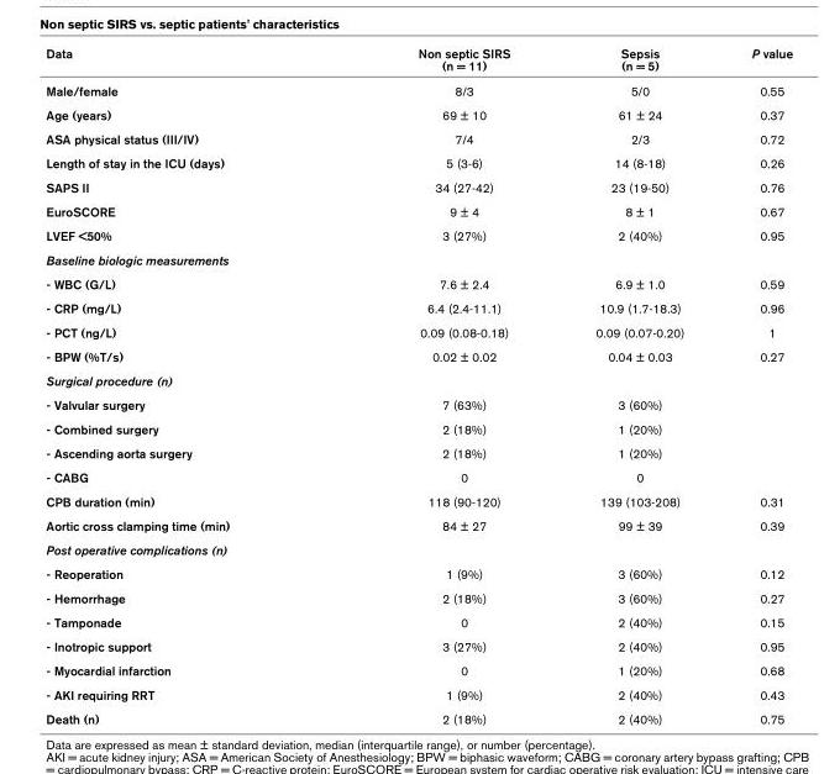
<table><thead><tr><td>Data</td><td>Non septic SIRS (n = 11)</td><td>Sepsis (n = 5)</td><td>P value</td></tr></thead><tbody><tr><td>Male/female</td><td>8/3</td><td>5/0</td><td>0.55</td></tr><tr><td>Age (years)</td><td>69 ± 10</td><td>61 ± 24</td><td>0.37</td></tr><tr><td>ASA physical status (III/IV)</td><td>7/4</td><td>2/3</td><td>0.72</td></tr><tr><td>Length of stay in the ICU (days)</td><td>5 (3-6)</td><td>14 (8-18)</td><td>0.26</td></tr><tr><td>SAPS II</td><td>34 (27-42)</td><td>23 (19-50)</td><td>0.76</td></tr><tr><td>EuroSCORE</td><td>9 ± 4</td><td>8 ± 1</td><td>0.67</td></tr><tr><td>LVEF &lt;50%</td><td>3 (27%)</td><td>2 (40%)</td><td>0.95</td></tr><tr><td colspan="4">Baseline biologic measurements</td></tr><tr><td>- WBC (G/L)</td><td>7.6 ± 2.4</td><td>6.9 ± 1.0</td><td>0.59</td></tr><tr><td>- CRP (mg/L)</td><td>6.4 (2.4-11.1)</td><td>10.9 (1.7-18.3)</td><td>0.96</td></tr><tr><td>- PCT (ng/L)</td><td>0.09 (0.08-0.18)</td><td>0.09 (0.07-0.20)</td><td>1</td></tr><tr><td>- BPW (%T/s)</td><td>0.02 ± 0.02</td><td>0.04 ± 0.03</td><td>0.27</td></tr><tr><td colspan="4">Surgical procedure (n)</td></tr><tr><td>- Valvular surgery</td><td>7 (63%)</td><td>3 (60%)</td><td></td></tr><tr><td>- Combined surgery</td><td>2 (18%)</td><td>1 (20%)</td><td></td></tr><tr><td>- Ascending aorta surgery</td><td>2 (18%)</td><td>1 (20%)</td><td></td></tr><tr><td>- CABG</td><td>0</td><td>0</td><td></td></tr><tr><td>CPB duration (min)</td><td>118 (90-120)</td><td>139 (103-208)</td><td>0.31</td></tr><tr><td>Aortic cross clamping time (min)</td><td>84 ± 27</td><td>99 ± 39</td><td>0.39</td></tr><tr><td colspan="4">Post operative complications (n)</td></tr><tr><td>- Reoperation</td><td>1 (9%)</td><td>3 (60%)</td><td>0.12</td></tr><tr><td>- Hemorrhage</td><td>2 (18%)</td><td>3 (60%)</td><td>0.27</td></tr><tr><td>- Tamponade</td><td>0</td><td>2 (40%)</td><td>0.15</td></tr><tr><td>- Inotropic support</td><td>3 (27%)</td><td>2 (40%)</td><td>0.95</td></tr><tr><td>- Myocardial infarction</td><td>0</td><td>1 (20%)</td><td>0.68</td></tr><tr><td>- AKI requiring RRT</td><td>1 (9%)</td><td>2 (40%)</td><td>0.43</td></tr><tr><td>Death (n)</td><td>2 (18%)</td><td>2 (40%)</td><td>0.75</td></tr></tbody></table>